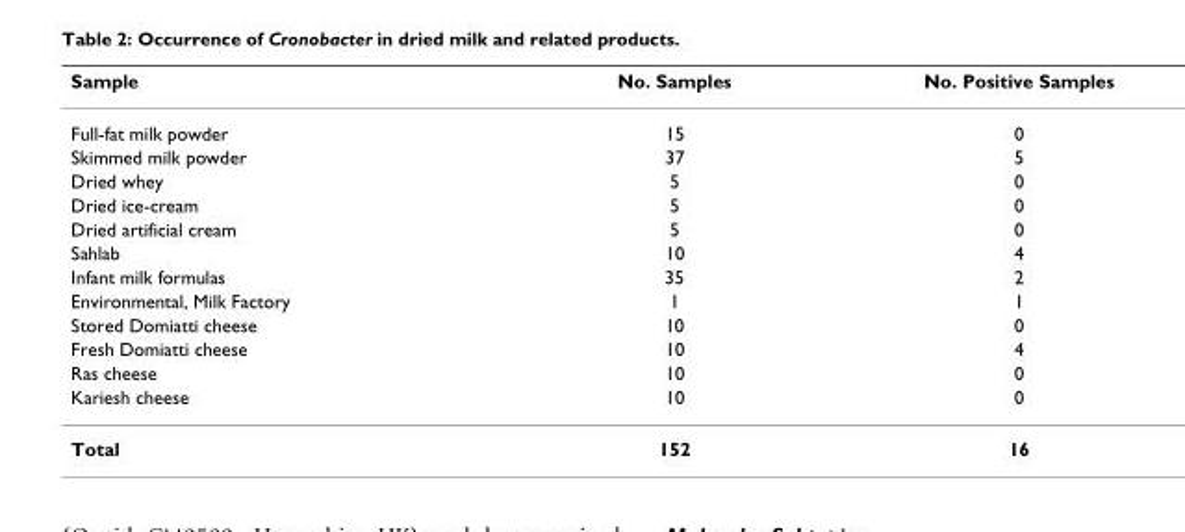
<table><thead><tr><td>Sample</td><td>No. Samples</td><td>No. Positive Samples</td></tr></thead><tbody><tr><td>Full-fat milk powder</td><td>15</td><td>0</td></tr><tr><td>Skimmed milk powder</td><td>37</td><td>5</td></tr><tr><td>Dried whey</td><td>5</td><td>0</td></tr><tr><td>Dried ice-cream</td><td>5</td><td>0</td></tr><tr><td>Dried artificial cream</td><td>5</td><td>0</td></tr><tr><td>Sahlab</td><td>10</td><td>4</td></tr><tr><td>Infant milk formulas</td><td>35</td><td>2</td></tr><tr><td>Environmental, Milk Factory</td><td>1</td><td>1</td></tr><tr><td>Stored Domiatti cheese</td><td>10</td><td>0</td></tr><tr><td>Fresh Domiatti cheese</td><td>10</td><td>4</td></tr><tr><td>Ras cheese</td><td>10</td><td>0</td></tr><tr><td>Kariesh cheese</td><td>10</td><td>0</td></tr><tr><td>Total</td><td>152</td><td>16</td></tr></tbody></table>